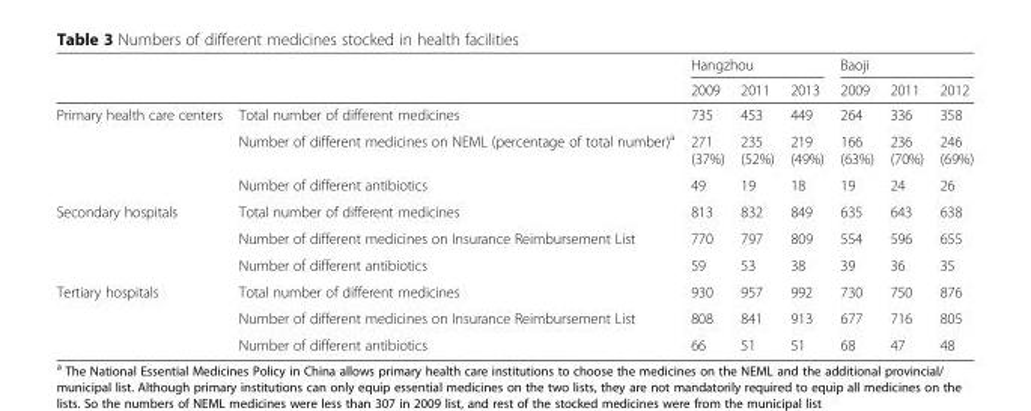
<table><thead><tr><td rowspan="2"></td><td rowspan="2"></td><td colspan="3">Hangzhou</td><td colspan="3">Baoji</td></tr><tr><td>2009</td><td>2011</td><td>2013</td><td>2009</td><td>2011</td><td>2012</td></tr></thead><tbody><tr><td rowspan="3">Primary health care centers</td><td>Total number of different medicines</td><td>735</td><td>453</td><td>449</td><td>264</td><td>336</td><td>358</td></tr><tr><td>Number of different medicines on NEML (percentage of total number)<sup>a</sup></td><td>271 (37%)</td><td>235 (52%)</td><td>219 (49%)</td><td>166 (63%)</td><td>236 (70%)</td><td>246 (69%)</td></tr><tr><td>Number of different antibiotics</td><td>49</td><td>19</td><td>18</td><td>19</td><td>24</td><td>26</td></tr><tr><td rowspan="3">Secondary hospitals</td><td>Total number of different medicines</td><td>813</td><td>832</td><td>849</td><td>635</td><td>643</td><td>638</td></tr><tr><td>Number of different medicines on Insurance Reimbursement List</td><td>770</td><td>797</td><td>809</td><td>554</td><td>596</td><td>655</td></tr><tr><td>Number of different antibiotics</td><td>59</td><td>53</td><td>38</td><td>39</td><td>36</td><td>35</td></tr><tr><td rowspan="3">Tertiary hospitals</td><td>Total number of different medicines</td><td>930</td><td>957</td><td>992</td><td>730</td><td>750</td><td>876</td></tr><tr><td>Number of different medicines on Insurance Reimbursement List</td><td>808</td><td>841</td><td>913</td><td>677</td><td>716</td><td>805</td></tr><tr><td>Number of different antibiotics</td><td>66</td><td>51</td><td>51</td><td>68</td><td>47</td><td>48</td></tr></tbody></table>